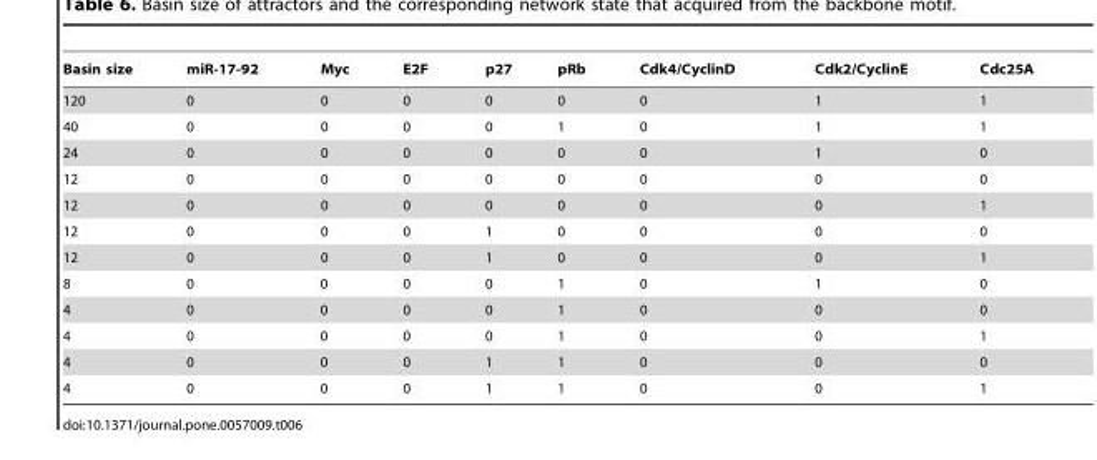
<table><thead><tr><td>Basin size</td><td>miR-17-92</td><td>Myc</td><td>E2F</td><td>p27</td><td>pRb</td><td>Cdk4/CyclinD</td><td>Cdk2/CyclinE</td><td>Cdc25A</td></tr></thead><tbody><tr><td>120</td><td>0</td><td>0</td><td>0</td><td>0</td><td>0</td><td>0</td><td>1</td><td>1</td></tr><tr><td>40</td><td>0</td><td>0</td><td>0</td><td>0</td><td>1</td><td>0</td><td>1</td><td>1</td></tr><tr><td>24</td><td>0</td><td>0</td><td>0</td><td>0</td><td>0</td><td>0</td><td>1</td><td>0</td></tr><tr><td>12</td><td>0</td><td>0</td><td>0</td><td>0</td><td>0</td><td>0</td><td>0</td><td>0</td></tr><tr><td>12</td><td>0</td><td>0</td><td>0</td><td>0</td><td>0</td><td>0</td><td>0</td><td>1</td></tr><tr><td>12</td><td>0</td><td>0</td><td>0</td><td>1</td><td>0</td><td>0</td><td>0</td><td>0</td></tr><tr><td>12</td><td>0</td><td>0</td><td>0</td><td>1</td><td>0</td><td>0</td><td>0</td><td>1</td></tr><tr><td>8</td><td>0</td><td>0</td><td>0</td><td>0</td><td>1</td><td>0</td><td>1</td><td>0</td></tr><tr><td>4</td><td>0</td><td>0</td><td>0</td><td>0</td><td>1</td><td>0</td><td>0</td><td>0</td></tr><tr><td>4</td><td>0</td><td>0</td><td>0</td><td>0</td><td>1</td><td>0</td><td>0</td><td>1</td></tr><tr><td>4</td><td>0</td><td>0</td><td>0</td><td>1</td><td>1</td><td>0</td><td>0</td><td>0</td></tr><tr><td>4</td><td>0</td><td>0</td><td>0</td><td>1</td><td>1</td><td>0</td><td>0</td><td>1</td></tr></tbody></table>